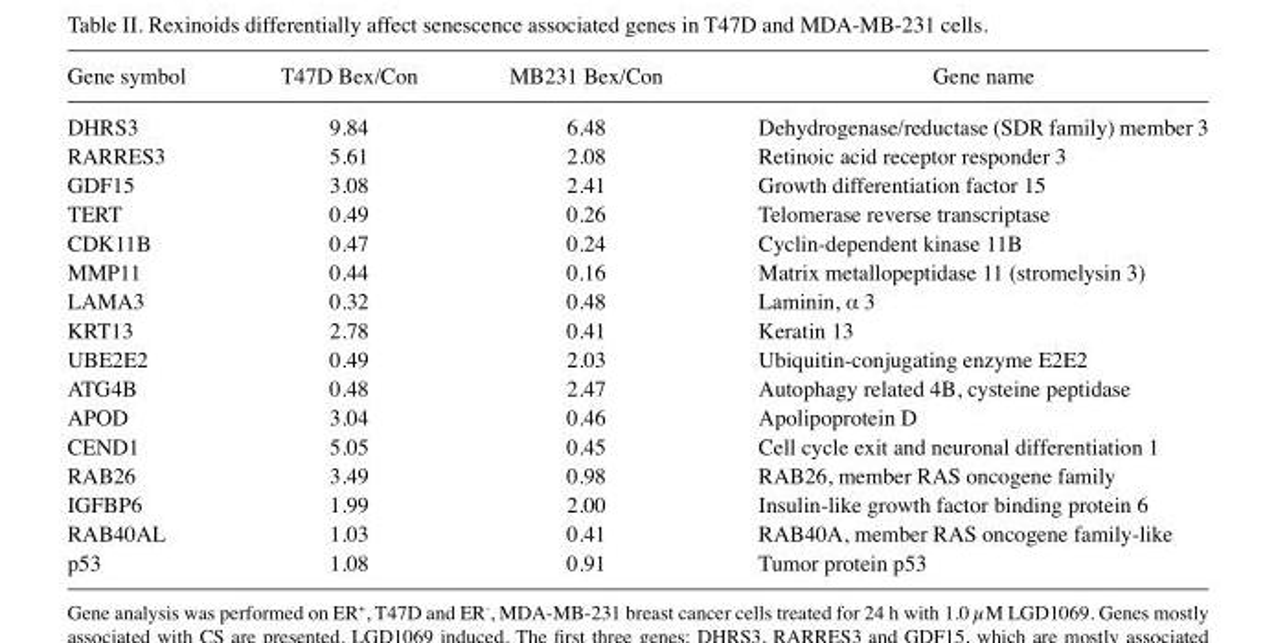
<table><thead><tr><td>Gene symbol</td><td>T47D Bex/Con</td><td>MB231 Bex/Con</td><td>Gene name</td></tr></thead><tbody><tr><td>DHRS3</td><td>9.84</td><td>6.48</td><td>Dehydrogenase/reductase (SDR family) member 3</td></tr><tr><td>RARRES3</td><td>5.61</td><td>2.08</td><td>Retinoic acid receptor responder 3</td></tr><tr><td>GDF15</td><td>3.08</td><td>2.41</td><td>Growth differentiation factor 15</td></tr><tr><td>TERT</td><td>0.49</td><td>0.26</td><td>Telomerase reverse transcriptase</td></tr><tr><td>CDk11B</td><td>0.47</td><td>0.24</td><td>Cyclin-dependent kinase 11B</td></tr><tr><td>MMP11</td><td>0.44</td><td>0.16</td><td>Matrix metallopeptidase 11 (stromelysin 3)</td></tr><tr><td>LAMA3</td><td>0.32</td><td>0.48</td><td>Laminin, α 3</td></tr><tr><td>kRT13</td><td>2.78</td><td>0.41</td><td>keratin 13</td></tr><tr><td>UBE2E2</td><td>0.49</td><td>2.03</td><td>Ubiquitin-conjugating enzyme E2E2</td></tr><tr><td>ATG4B</td><td>0.48</td><td>2.47</td><td>Autophagy related 4B, cysteine peptidase</td></tr><tr><td>APOD</td><td>3.04</td><td>0.46</td><td>Apolipoprotein D</td></tr><tr><td>CEND1</td><td>5.05</td><td>0.45</td><td>Cell cycle exit and neuronal differentiation 1</td></tr><tr><td>RAB26</td><td>3.49</td><td>0.98</td><td>RAB26, member RAS oncogene family</td></tr><tr><td>IGFBP6</td><td>1.99</td><td>2.00</td><td>Insulin-like growth factor binding protein 6</td></tr><tr><td>RAB40AL</td><td>1.03</td><td>0.41</td><td>RAB40A, member RAS oncogene family-like</td></tr><tr><td>p53</td><td>1.08</td><td>0.91</td><td>Tumor protein p53</td></tr></tbody></table>